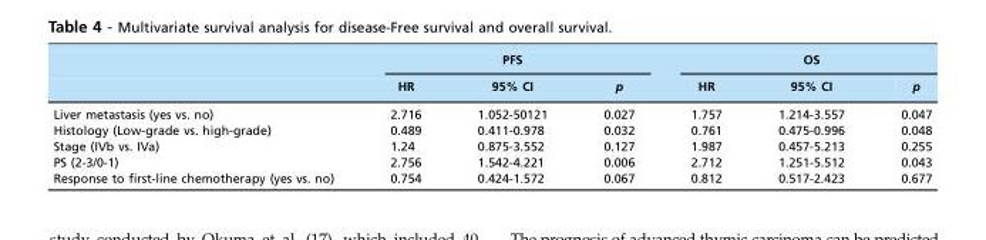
<table><thead><tr><td rowspan="2"></td><td colspan="3">PFS</td><td colspan="3">OS</td></tr><tr><td>HR</td><td>95% CI</td><td>p</td><td>HR</td><td>95% CI</td><td>p</td></tr></thead><tbody><tr><td>Liver metastasis (yes vs. no)</td><td>2.716</td><td>1.052-50121</td><td>0.027</td><td>1.757</td><td>1.214-3.557</td><td>0.047</td></tr><tr><td>Histology (Low-grade vs. high-grade)</td><td>0.489</td><td>0.411-0.978</td><td>0.032</td><td>0.761</td><td>0.475-0.996</td><td>0.048</td></tr><tr><td>Stage (IVb vs. IVa)</td><td>1.24</td><td>0.875-3.552</td><td>0.127</td><td>1.987</td><td>0.457-5.213</td><td>0.255</td></tr><tr><td>PS (2-3/0-1)</td><td>2.756</td><td>1.542-4.221</td><td>0.006</td><td>2.712</td><td>1.251-5.512</td><td>0.043</td></tr><tr><td>Response to first-line chemotherapy (yes vs. no)</td><td>0.754</td><td>0.424-1.572</td><td>0.067</td><td>0.812</td><td>0.517-2.423</td><td>0.677</td></tr></tbody></table>